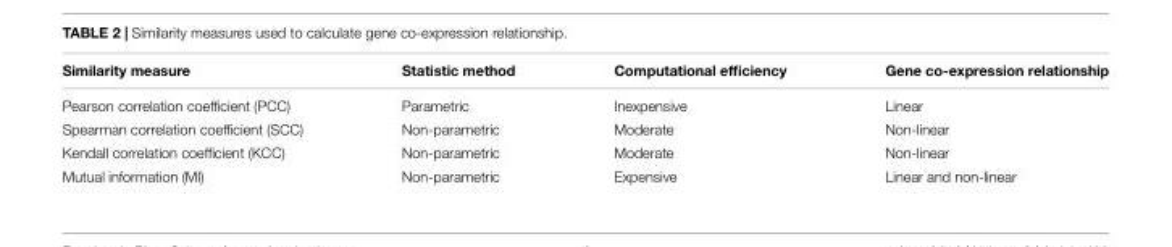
<table><thead><tr><td>Similarity measure</td><td>Statistic method</td><td>Computational efficiency</td><td>Gene co-expression relationship</td></tr></thead><tbody><tr><td>Pearson correlation coefficient (PCC)</td><td>Parametric</td><td>Inexpensive</td><td>Linear</td></tr><tr><td>Spearman correlation coefficient (SCC)</td><td>Non-parametric</td><td>Moderate</td><td>Non-linear</td></tr><tr><td>Kendall correlation coefficient (KCC)</td><td>Non-parametric</td><td>Moderate</td><td>Non-linear</td></tr><tr><td>Mutual information (MI)</td><td>Non-parametric</td><td>Expensive</td><td>Linear and non-linear</td></tr></tbody></table>